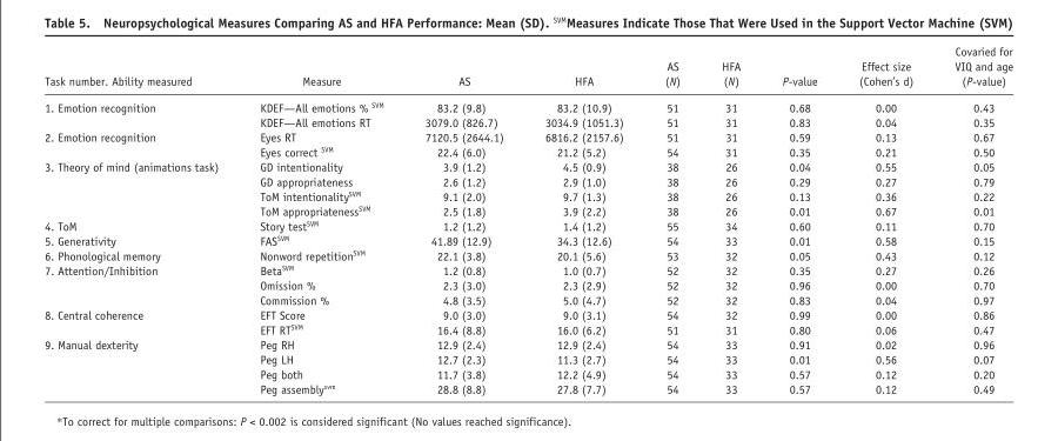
<table><thead><tr><td>Task number. Ability measured</td><td>Measure</td><td>AS</td><td>HFA</td><td>AS (N)</td><td>HFA (N)</td><td>P-value</td><td>Effect size (Cohen’s d)</td><td>Covaried for VIQ and age (P-value)</td></tr></thead><tbody><tr><td rowspan="2">1. Emotion recognition</td><td>KDEF—All emotions % <sup>SVM</sup></td><td>83.2 (9.8)</td><td>83.2 (10.9)</td><td>51</td><td>31</td><td>0.68</td><td>0.00</td><td>0.43</td></tr><tr><td>KDEF—All emotions RT</td><td>3079.0 (826.7)</td><td>3034.9 (1051.3)</td><td>51</td><td>31</td><td>0.83</td><td>0.04</td><td>0.35</td></tr><tr><td rowspan="2">2. Emotion recognition</td><td>Eyes RT</td><td>7120.5 (2644.1)</td><td>6816.2 (2157.6)</td><td>51</td><td>31</td><td>0.59</td><td>0.13</td><td>0.67</td></tr><tr><td>Eyes correct <sup>SVM</sup></td><td>22.4 (6.0)</td><td>21.2 (5.2)</td><td>54</td><td>31</td><td>0.35</td><td>0.21</td><td>0.50</td></tr><tr><td rowspan="4">3. Theory of mind (animations task)</td><td>GD intentionality</td><td>3.9 (1.2)</td><td>4.5 (0.9)</td><td>38</td><td>26</td><td>0.04</td><td>0.55</td><td>0.05</td></tr><tr><td>GD appropriateness</td><td>2.6 (1.2)</td><td>2.9 (1.0)</td><td>38</td><td>26</td><td>0.29</td><td>0.27</td><td>0.79</td></tr><tr><td>ToM intentionality<sup>SVM</sup></td><td>9.1 (2.0)</td><td>9.7 (1.3)</td><td>38</td><td>26</td><td>0.13</td><td>0.36</td><td>0.22</td></tr><tr><td>ToM appropriateness<sup>SVM</sup></td><td>2.5 (1.8)</td><td>3.9 (2.2)</td><td>38</td><td>26</td><td>0.01</td><td>0.67</td><td>0.01</td></tr><tr><td>4. ToM</td><td>Story test<sup>SVM</sup></td><td>1.2 (1.2)</td><td>1.4 (1.2)</td><td>55</td><td>34</td><td>0.60</td><td>0.11</td><td>0.70</td></tr><tr><td>5. Generativity</td><td>FAS<sup>SVM</sup></td><td>41.89 (12.9)</td><td>34.3 (12.6)</td><td>54</td><td>33</td><td>0.01</td><td>0.58</td><td>0.15</td></tr><tr><td>6. Phonological memory</td><td>Nonword repetition<sup>SVM</sup></td><td>22.1 (3.8)</td><td>20.1 (5.6)</td><td>53</td><td>32</td><td>0.05</td><td>0.43</td><td>0.12</td></tr><tr><td rowspan="3">7. Attention/Inhibition</td><td>Beta<sup>SVM</sup></td><td>1.2 (0.8)</td><td>1.0 (0.7)</td><td>52</td><td>32</td><td>0.35</td><td>0.27</td><td>0.26</td></tr><tr><td>Omission %</td><td>2.3 (3.0)</td><td>2.3 (2.9)</td><td>52</td><td>32</td><td>0.96</td><td>0.00</td><td>0.70</td></tr><tr><td>Commission %</td><td>4.8 (3.5)</td><td>5.0 (4.7)</td><td>52</td><td>32</td><td>0.83</td><td>0.04</td><td>0.97</td></tr><tr><td rowspan="2">8. Central coherence</td><td>EFT Score</td><td>9.0 (3.0)</td><td>9.0 (3.1)</td><td>54</td><td>32</td><td>0.99</td><td>0.00</td><td>0.86</td></tr><tr><td>EFT RT<sup>SVM</sup></td><td>16.4 (8.8)</td><td>16.0 (6.2)</td><td>51</td><td>31</td><td>0.80</td><td>0.06</td><td>0.47</td></tr><tr><td rowspan="4">9. Manual dexterity</td><td>Peg RH</td><td>12.9 (2.4)</td><td>12.9 (2.4)</td><td>54</td><td>33</td><td>0.91</td><td>0.02</td><td>0.96</td></tr><tr><td>Peg LH</td><td>12.7 (2.3)</td><td>11.3 (2.7)</td><td>54</td><td>33</td><td>0.01</td><td>0.56</td><td>0.07</td></tr><tr><td>Peg both</td><td>11.7 (3.8)</td><td>12.2 (4.9)</td><td>54</td><td>33</td><td>0.57</td><td>0.12</td><td>0.20</td></tr><tr><td>Peg assembly<sup>svm</sup></td><td>28.8 (8.8)</td><td>27.8 (7.7)</td><td>54</td><td>33</td><td>0.57</td><td>0.12</td><td>0.49</td></tr></tbody></table>